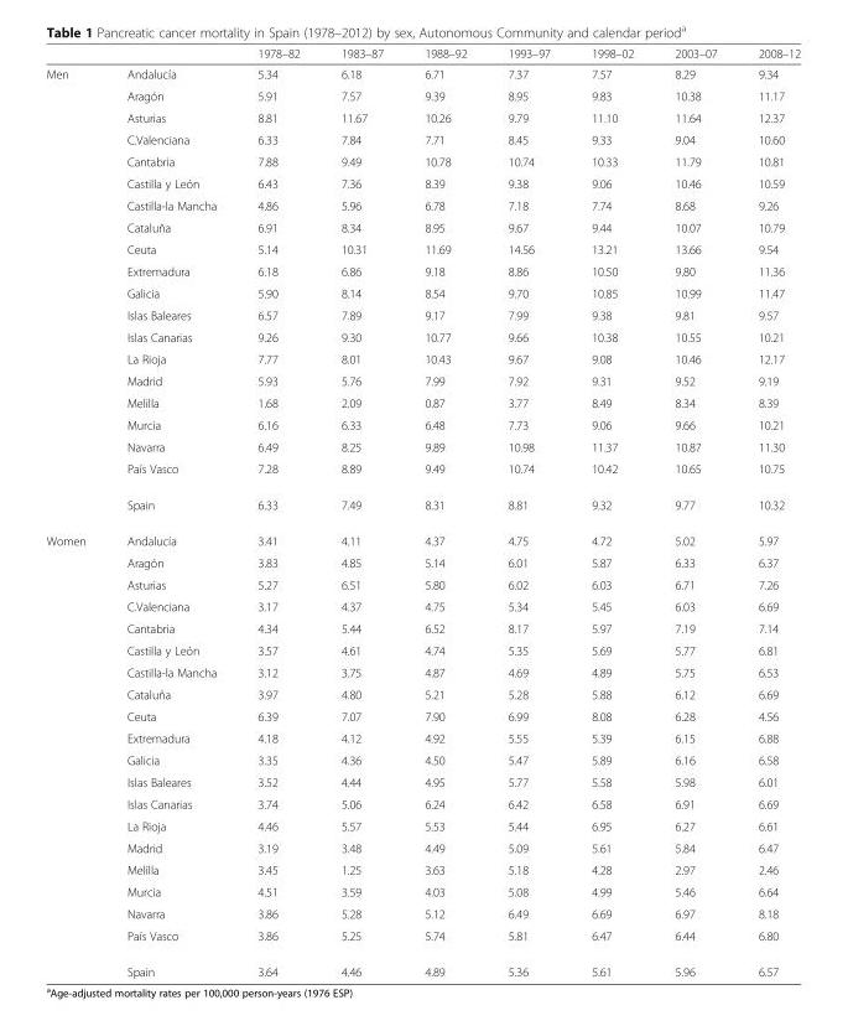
<table><thead><tr><td></td><td></td><td>1978–82</td><td>1983–87</td><td>1988–92</td><td>1993–97</td><td>1998–02</td><td>2003–07</td><td>2008–12</td></tr></thead><tbody><tr><td rowspan="20">Men</td><td>Andalucía</td><td>5.34</td><td>6.18</td><td>6.71</td><td>7.37</td><td>7.57</td><td>8.29</td><td>9.34</td></tr><tr><td>Aragón</td><td>5.91</td><td>7.57</td><td>9.39</td><td>8.95</td><td>9.83</td><td>10.38</td><td>11.17</td></tr><tr><td>Asturias</td><td>8.81</td><td>11.67</td><td>10.26</td><td>9.79</td><td>11.10</td><td>11.64</td><td>12.37</td></tr><tr><td>C.Valenciana</td><td>6.33</td><td>7.84</td><td>7.71</td><td>8.45</td><td>9.33</td><td>9.04</td><td>10.60</td></tr><tr><td>Cantabria</td><td>7.88</td><td>9.49</td><td>10.78</td><td>10.74</td><td>10.33</td><td>11.79</td><td>10.81</td></tr><tr><td>Castilla y León</td><td>6.43</td><td>7.36</td><td>8.39</td><td>9.38</td><td>9.06</td><td>10.46</td><td>10.59</td></tr><tr><td>Castilla-la Mancha</td><td>4.86</td><td>5.96</td><td>6.78</td><td>7.18</td><td>7.74</td><td>8.68</td><td>9.26</td></tr><tr><td>Cataluña</td><td>6.91</td><td>8.34</td><td>8.95</td><td>9.67</td><td>9.44</td><td>10.07</td><td>10.79</td></tr><tr><td>Ceuta</td><td>5.14</td><td>10.31</td><td>11.69</td><td>14.56</td><td>13.21</td><td>13.66</td><td>9.54</td></tr><tr><td>Extremadura</td><td>6.18</td><td>6.86</td><td>9.18</td><td>8.86</td><td>10.50</td><td>9.80</td><td>11.36</td></tr><tr><td>Galicia</td><td>5.90</td><td>8.14</td><td>8.54</td><td>9.70</td><td>10.85</td><td>10.99</td><td>11.47</td></tr><tr><td>Islas Baleares</td><td>6.57</td><td>7.89</td><td>9.17</td><td>7.99</td><td>9.38</td><td>9.81</td><td>9.57</td></tr><tr><td>Islas Canarias</td><td>9.26</td><td>9.30</td><td>10.77</td><td>9.66</td><td>10.38</td><td>10.55</td><td>10.21</td></tr><tr><td>La Rioja</td><td>7.77</td><td>8.01</td><td>10.43</td><td>9.67</td><td>9.08</td><td>10.46</td><td>12.17</td></tr><tr><td>Madrid</td><td>5.93</td><td>5.76</td><td>7.99</td><td>7.92</td><td>9.31</td><td>9.52</td><td>9.19</td></tr><tr><td>Melilla</td><td>1.68</td><td>2.09</td><td>0.87</td><td>3.77</td><td>8.49</td><td>8.34</td><td>8.39</td></tr><tr><td>Murcia</td><td>6.16</td><td>6.33</td><td>6.48</td><td>7.73</td><td>9.06</td><td>9.66</td><td>10.21</td></tr><tr><td>Navarra</td><td>6.49</td><td>8.25</td><td>9.89</td><td>10.98</td><td>11.37</td><td>10.87</td><td>11.30</td></tr><tr><td>País Vasco</td><td>7.28</td><td>8.89</td><td>9.49</td><td>10.74</td><td>10.42</td><td>10.65</td><td>10.75</td></tr><tr><td>Spain</td><td>6.33</td><td>7.49</td><td>8.31</td><td>8.81</td><td>9.32</td><td>9.77</td><td>10.32</td></tr><tr><td rowspan="20">Women</td><td>Andalucía</td><td>3.41</td><td>4.11</td><td>4.37</td><td>4.75</td><td>4.72</td><td>5.02</td><td>5.97</td></tr><tr><td>Aragón</td><td>3.83</td><td>4.85</td><td>5.14</td><td>6.01</td><td>5.87</td><td>6.33</td><td>6.37</td></tr><tr><td>Asturias</td><td>5.27</td><td>6.51</td><td>5.80</td><td>6.02</td><td>6.03</td><td>6.71</td><td>7.26</td></tr><tr><td>C.Valenciana</td><td>3.17</td><td>4.37</td><td>4.75</td><td>5.34</td><td>5.45</td><td>6.03</td><td>6.69</td></tr><tr><td>Cantabria</td><td>4.34</td><td>5.44</td><td>6.52</td><td>8.17</td><td>5.97</td><td>7.19</td><td>7.14</td></tr><tr><td>Castilla y León</td><td>3.57</td><td>4.61</td><td>4.74</td><td>5.35</td><td>5.69</td><td>5.77</td><td>6.81</td></tr><tr><td>Castilla-la Mancha</td><td>3.12</td><td>3.75</td><td>4.87</td><td>4.69</td><td>4.89</td><td>5.75</td><td>6.53</td></tr><tr><td>Cataluña</td><td>3.97</td><td>4.80</td><td>5.21</td><td>5.28</td><td>5.88</td><td>6.12</td><td>6.69</td></tr><tr><td>Ceuta</td><td>6.39</td><td>7.07</td><td>7.90</td><td>6.99</td><td>8.08</td><td>6.28</td><td>4.56</td></tr><tr><td>Extremadura</td><td>4.18</td><td>4.12</td><td>4.92</td><td>5.55</td><td>5.39</td><td>6.15</td><td>6.88</td></tr><tr><td>Galicia</td><td>3.35</td><td>4.36</td><td>4.50</td><td>5.47</td><td>5.89</td><td>6.16</td><td>6.58</td></tr><tr><td>Islas Baleares</td><td>3.52</td><td>4.44</td><td>4.95</td><td>5.77</td><td>5.58</td><td>5.98</td><td>6.01</td></tr><tr><td>Islas Canarias</td><td>3.74</td><td>5.06</td><td>6.24</td><td>6.42</td><td>6.58</td><td>6.91</td><td>6.69</td></tr><tr><td>La Rioja</td><td>4.46</td><td>5.57</td><td>5.53</td><td>5.44</td><td>6.95</td><td>6.27</td><td>6.61</td></tr><tr><td>Madrid</td><td>3.19</td><td>3.48</td><td>4.49</td><td>5.09</td><td>5.61</td><td>5.84</td><td>6.47</td></tr><tr><td>Melilla</td><td>3.45</td><td>1.25</td><td>3.63</td><td>5.18</td><td>4.28</td><td>2.97</td><td>2.46</td></tr><tr><td>Murcia</td><td>4.51</td><td>3.59</td><td>4.03</td><td>5.08</td><td>4.99</td><td>5.46</td><td>6.64</td></tr><tr><td>Navarra</td><td>3.86</td><td>5.28</td><td>5.12</td><td>6.49</td><td>6.69</td><td>6.97</td><td>8.18</td></tr><tr><td>País Vasco</td><td>3.86</td><td>5.25</td><td>5.74</td><td>5.81</td><td>6.47</td><td>6.44</td><td>6.80</td></tr><tr><td>Spain</td><td>3.64</td><td>4.46</td><td>4.89</td><td>5.36</td><td>5.61</td><td>5.96</td><td>6.57</td></tr></tbody></table>